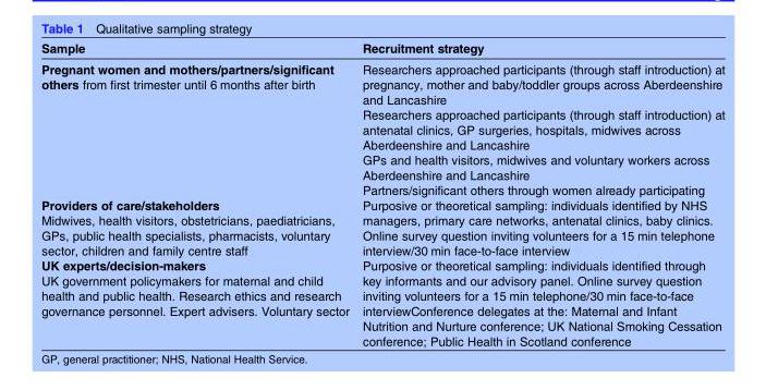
<table><thead><tr><td>Sample</td><td>Recruitment strategy</td></tr></thead><tbody><tr><td>Pregnant women and mothers/partners/significant others from first trimester until 6 months after birth</td><td>Researchers approached participants (through staff introduction) at pregnancy, mother and baby/toddler groups across Aberdeenshire and Lancashire Researchers approached participants (through staff introduction) at antenatal clinics, GP surgeries, hospitals, midwives across Aberdeenshire and Lancashire GPs and health visitors, midwives and voluntary workers across Aberdeenshire and Lancashire Partners/significant others through women already participating</td></tr><tr><td>Providers of care/stakeholders Midwives, health visitors, obstetricians, paediatricians, GPs, public health specialists, pharmacists, voluntary sector, children and family centre staff</td><td>Purposive or theoretical sampling: individuals identified by NHS managers, primary care networks, antenatal clinics, baby clinics. Online survey question inviting volunteers for a 15 min telephone interview/30 min face-to-face interview</td></tr><tr><td>UK experts/decision-makers UK government policymakers for maternal and child health and public health. Research ethics and research governance personnel. Expert advisers. Voluntary sector</td><td>Purposive or theoretical sampling: individuals identified through key informants and our advisory panel. Online survey question inviting volunteers for a 15 min telephone/30 min face-to-face interviewConference delegates at the: Maternal and Infant Nutrition and Nurture conference; UK National Smoking Cessation conference; Public Health in Scotland conference</td></tr></tbody></table>